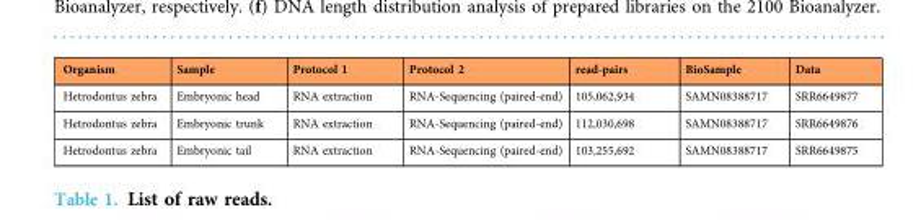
<table><thead><tr><td>Organism</td><td>Sample</td><td>Protocol 1</td><td>Protocol 2</td><td>read-pairs</td><td>BioSample</td><td>Data</td></tr></thead><tbody><tr><td>Hetrodontus zebra</td><td>Embryonic head</td><td>RNA extraction</td><td>RNA-Sequencing (paired-end)</td><td>105,062,934</td><td>SAMN08388717</td><td>SRR6649877</td></tr><tr><td>Hetrodontus zebra</td><td>Embryonic trunk</td><td>RNA extraction</td><td>RNA-Sequencing (paired-end)</td><td>112,030,698</td><td>SAMN08388717</td><td>SRR6649876</td></tr><tr><td>Hetrodontus zebra</td><td>Embryonic tail</td><td>RNA extraction</td><td>RNA-Sequencing (paired-end)</td><td>103,255,692</td><td>SAMN08388717</td><td>SRR6649875</td></tr></tbody></table>